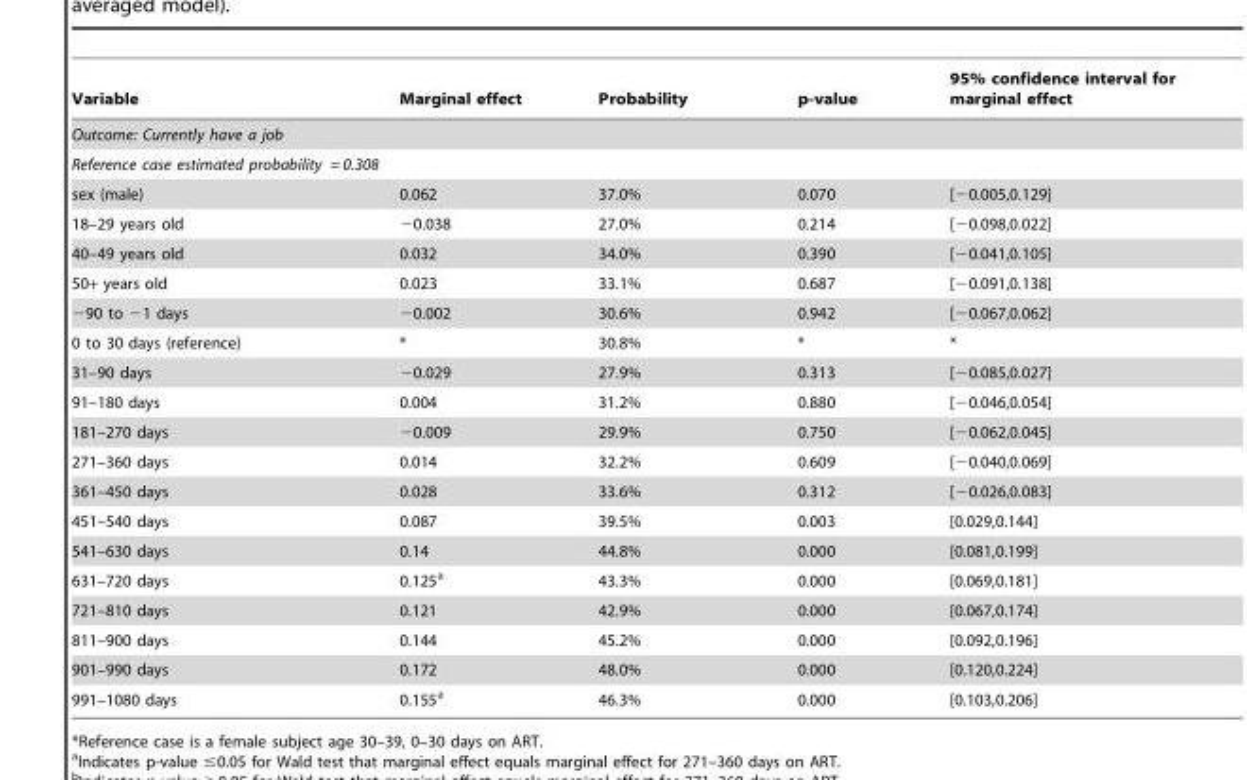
<table><thead><tr><td>Variable</td><td>Marginal effect</td><td>Probability</td><td>p-value</td><td>95% confidence interval for marginal effect</td></tr></thead><tbody><tr><td colspan="5">Outcome: Currently have a job</td></tr><tr><td colspan="5">Reference case estimated probability = 0.308</td></tr><tr><td>sex (male)</td><td>0.062</td><td>37.0%</td><td>0.070</td><td>[−0.005,0.129]</td></tr><tr><td>18–29 years old</td><td>−0.038</td><td>27.0%</td><td>0.214</td><td>[−0.098,0.022]</td></tr><tr><td>40–49 years old</td><td>0.032</td><td>34.0%</td><td>0.390</td><td>[−0.041,0.105]</td></tr><tr><td>50+ years old</td><td>0.023</td><td>33.1%</td><td>0.687</td><td>[−0.091,0.138]</td></tr><tr><td>−90 to −1 days</td><td>−0.002</td><td>30.6%</td><td>0.942</td><td>[−0.067,0.062]</td></tr><tr><td>0 to 30 days (reference)</td><td>*</td><td>30.8%</td><td>*</td><td>*</td></tr><tr><td>31–90 days</td><td>−0.029</td><td>27.9%</td><td>0.313</td><td>[−0.085,0.027]</td></tr><tr><td>91–180 days</td><td>0.004</td><td>31.2%</td><td>0.880</td><td>[−0.046,0.054]</td></tr><tr><td>181–270 days</td><td>−0.009</td><td>29.9%</td><td>0.750</td><td>[−0.062,0.045]</td></tr><tr><td>271–360 days</td><td>0.014</td><td>32.2%</td><td>0.609</td><td>[−0.040,0.069]</td></tr><tr><td>361–450 days</td><td>0.028</td><td>33.6%</td><td>0.312</td><td>[−0.026,0.083]</td></tr><tr><td>451–540 days</td><td>0.087</td><td>39.5%</td><td>0.003</td><td>[0.029,0.144]</td></tr><tr><td>541–630 days</td><td>0.14</td><td>44.8%</td><td>0.000</td><td>[0.081,0.199]</td></tr><tr><td>631–720 days</td><td>0.125<sup>a</sup></td><td>43.3%</td><td>0.000</td><td>[0.069,0.181]</td></tr><tr><td>721–810 days</td><td>0.121</td><td>42.9%</td><td>0.000</td><td>[0.067,0.174]</td></tr><tr><td>811–900 days</td><td>0.144</td><td>45.2%</td><td>0.000</td><td>[0.092,0.196]</td></tr><tr><td>901–990 days</td><td>0.172</td><td>48.0%</td><td>0.000</td><td>[0.120,0.224]</td></tr><tr><td>991–1080 days</td><td>0.155<sup>a</sup></td><td>46.3%</td><td>0.000</td><td>[0.103,0.206]</td></tr></tbody></table>